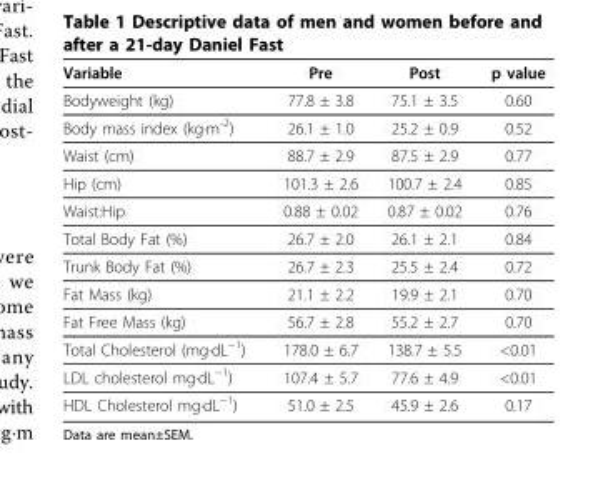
<table><thead><tr><td>Variable</td><td>Pre</td><td>Post</td><td>p value</td></tr></thead><tbody><tr><td>Bodyweight (kg)</td><td>77.8 ± 3.8</td><td>75.1 ± 3.5</td><td>0.60</td></tr><tr><td>Body mass index (kg·m<sup>-2</sup>)</td><td>26.1 ± 1.0</td><td>25.2 ± 0.9</td><td>0.52</td></tr><tr><td>Waist (cm)</td><td>88.7 ± 2.9</td><td>87.5 ± 2.9</td><td>0.77</td></tr><tr><td>Hip (cm)</td><td>101.3 ± 2.6</td><td>100.7 ± 2.4</td><td>0.85</td></tr><tr><td>Waist:Hip</td><td>0.88 ± 0.02</td><td>0.87 ± 0.02</td><td>0.76</td></tr><tr><td>Total Body Fat (%)</td><td>26.7 ± 2.0</td><td>26.1 ± 2.1</td><td>0.84</td></tr><tr><td>Trunk Body Fat (%)</td><td>26.7 ± 2.3</td><td>25.5 ± 2.4</td><td>0.72</td></tr><tr><td>Fat Mass (kg)</td><td>21.1 ± 2.2</td><td>19.9 ± 2.1</td><td>0.70</td></tr><tr><td>Fat Free Mass (kg)</td><td>56.7 ± 2.8</td><td>55.2 ± 2.7</td><td>0.70</td></tr><tr><td>Total Cholesterol (mg·dL<sup>−1</sup>)</td><td>178.0 ± 6.7</td><td>138.7 ± 5.5</td><td>&lt;0.01</td></tr><tr><td>LDL cholesterol mg·dL<sup>−1</sup>)</td><td>107.4 ± 5.7</td><td>77.6 ± 4.9</td><td>&lt;0.01</td></tr><tr><td>HDL Cholesterol mg·dL<sup>−1</sup>)</td><td>51.0 ± 2.5</td><td>45.9 ± 2.6</td><td>0.17</td></tr></tbody></table>